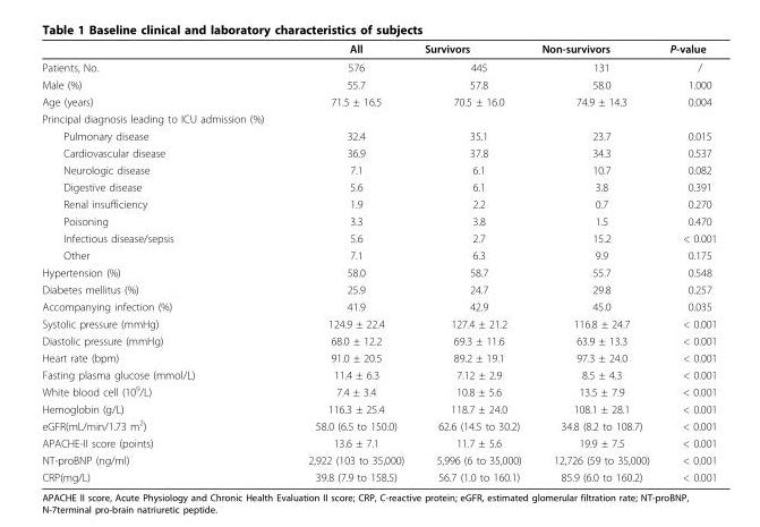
<table><thead><tr><td></td><td>All</td><td>Survivors</td><td>Non-survivors</td><td>P-value</td></tr></thead><tbody><tr><td>Patients, No.</td><td>576</td><td>445</td><td>131</td><td>/</td></tr><tr><td>Male (%)</td><td>55.7</td><td>57.8</td><td>58.0</td><td>1.000</td></tr><tr><td>Age (years)</td><td>71.5 ± 16.5</td><td>70.5 ± 16.0</td><td>74.9 ± 14.3</td><td>0.004</td></tr><tr><td colspan="5">Principal diagnosis leading to ICU admission (%)</td></tr><tr><td>Pulmonary disease</td><td>32.4</td><td>35.1</td><td>23.7</td><td>0.015</td></tr><tr><td>Cardiovascular disease</td><td>36.9</td><td>37.8</td><td>34.3</td><td>0.537</td></tr><tr><td>Neurologic disease</td><td>7.1</td><td>6.1</td><td>10.7</td><td>0.082</td></tr><tr><td>Digestive disease</td><td>5.6</td><td>6.1</td><td>3.8</td><td>0.391</td></tr><tr><td>Renal insufficiency</td><td>1.9</td><td>2.2</td><td>0.7</td><td>0.270</td></tr><tr><td>Poisoning</td><td>3.3</td><td>3.8</td><td>1.5</td><td>0.470</td></tr><tr><td>Infectious disease/sepsis</td><td>5.6</td><td>2.7</td><td>15.2</td><td>&lt; 0.001</td></tr><tr><td>Other</td><td>7.1</td><td>6.3</td><td>9.9</td><td>0.175</td></tr><tr><td>Hypertension (%)</td><td>58.0</td><td>58.7</td><td>55.7</td><td>0.548</td></tr><tr><td>Diabetes mellitus (%)</td><td>25.9</td><td>24.7</td><td>29.8</td><td>0.257</td></tr><tr><td>Accompanying infection (%)</td><td>41.9</td><td>42.9</td><td>45.0</td><td>0.035</td></tr><tr><td>Systolic pressure (mmHg)</td><td>124.9 ± 22.4</td><td>127.4 ± 21.2</td><td>116.8 ± 24.7</td><td>&lt; 0.001</td></tr><tr><td>Diastolic pressure (mmHg)</td><td>68.0 ± 12.2</td><td>69.3 ± 11.6</td><td>63.9 ± 13.3</td><td>&lt; 0.001</td></tr><tr><td>Heart rate (bpm)</td><td>91.0 ± 20.5</td><td>89.2 ± 19.1</td><td>97.3 ± 24.0</td><td>&lt; 0.001</td></tr><tr><td>Fasting plasma glucose (mmol/L)</td><td>11.4 ± 6.3</td><td>7.12 ± 2.9</td><td>8.5 ± 4.3</td><td>&lt; 0.001</td></tr><tr><td>White blood cell (10<sup>9</sup>/L)</td><td>7.4 ± 3.4</td><td>10.8 ± 5.6</td><td>13.5 ± 7.9</td><td>&lt; 0.001</td></tr><tr><td>Hemoglobin (g/L)</td><td>116.3 ± 25.4</td><td>118.7 ± 24.0</td><td>108.1 ± 28.1</td><td>&lt; 0.001</td></tr><tr><td>eGFR(mL/min/1.73 m<sup>2</sup>)</td><td>58.0 (6.5 to 150.0)</td><td>62.6 (14.5 to 30.2)</td><td>34.8 (8.2 to 108.7)</td><td>&lt; 0.001</td></tr><tr><td>APACHE-II score (points)</td><td>13.6 ± 7.1</td><td>11.7 ± 5.6</td><td>19.9 ± 7.5</td><td>&lt; 0.001</td></tr><tr><td>NT-proBNP (ng/ml)</td><td>2,922 (103 to 35,000)</td><td>5,996 (6 to 35,000)</td><td>12,726 (59 to 35,000)</td><td>&lt; 0.001</td></tr><tr><td>CRP(mg/L)</td><td>39.8 (7.9 to 158.5)</td><td>56.7 (1.0 to 160.1)</td><td>85.9 (6.0 to 160.2)</td><td>&lt; 0.001</td></tr></tbody></table>